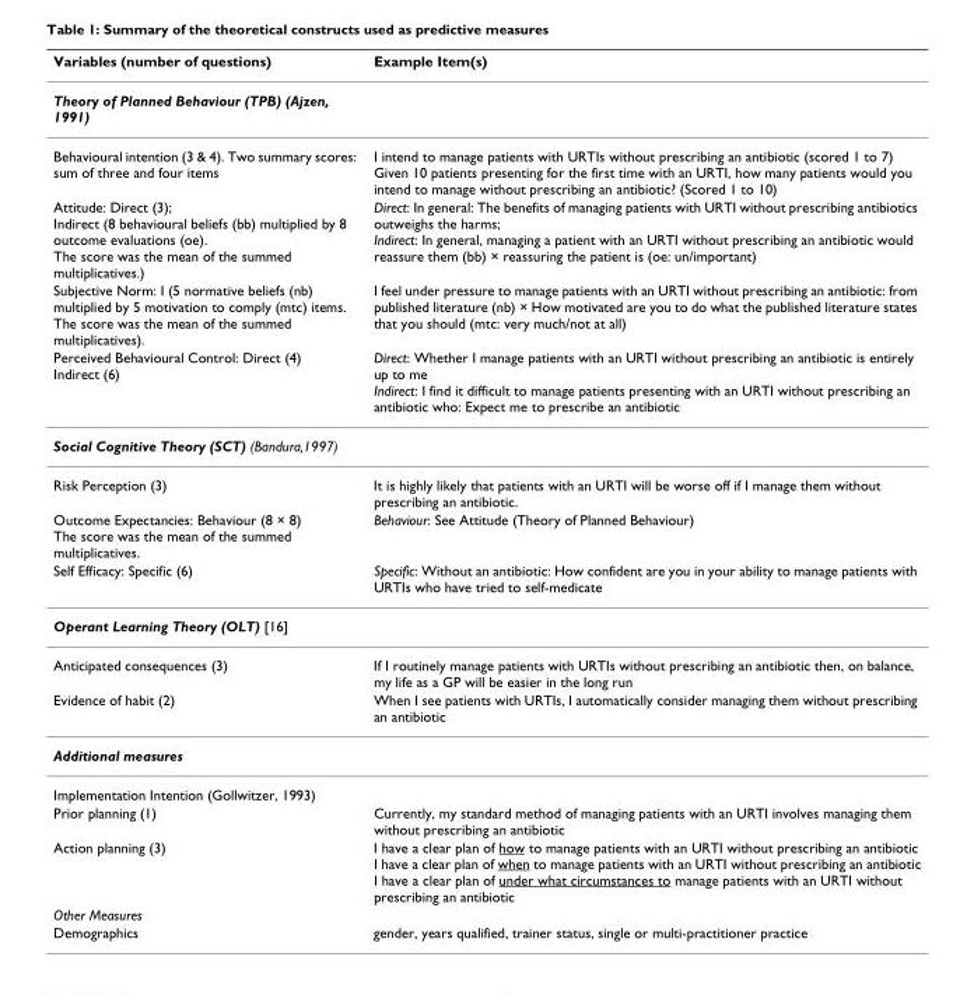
<table><thead><tr><td>Variables (number of questions)</td><td>Example Item(s)</td></tr></thead><tbody><tr><td colspan="2">Theory of Planned Behaviour (TPB) (Ajzen, 1991)</td></tr><tr><td>Behavioural intention (3 &amp; 4). Two summary scores: sum of three and four items</td><td>I intend to manage patients with URTIs without prescribing an antibiotic (scored 1 to 7) Given 10 patients presenting for the first time with an URTI, how many patients would you intend to manage without prescribing an antibiotic? (Scored 1 to 10)</td></tr><tr><td>Attitude: Direct (3); Indirect (8 behavioural beliefs (bb) multiplied by 8 outcome evaluations (oe). The score was the mean of the summed multiplicatives.)</td><td>Direct: In general: The benefits of managing patients with URTI without prescribing antibiotics outweighs the harms; Indirect: In general, managing a patient with an URTI without prescribing an antibiotic would reassure them (bb) × reassuring the patient is (oe: un/important)</td></tr><tr><td>Subjective Norm: I (5 normative beliefs (nb) multiplied by 5 motivation to comply (mtc) items. The score was the mean of the summed multiplicatives).</td><td>I feel under pressure to manage patients with an URTI without prescribing an antibiotic: from published literature (nb) × How motivated are you to do what the published literature states that you should (mtc: very much/not at all)</td></tr><tr><td>Perceived Behavioural Control: Direct (4) Indirect (6)</td><td>Direct: Whether I manage patients with an URTI without prescribing an antibiotic is entirely up to me Indirect: I find it difficult to manage patients presenting with an URTI without prescribing an antibiotic who: Expect me to prescribe an antibiotic</td></tr><tr><td colspan="2">Social Cognitive Theory (SCT) (Bandura,1997)</td></tr><tr><td>Risk Perception (3)</td><td>It is highly likely that patients with an URTI will be worse off if I manage them without prescribing an antibiotic.</td></tr><tr><td>Outcome Expectancies: Behaviour (8 × 8) The score was the mean of the summed multiplicatives.</td><td>Behaviour: See Attitude (Theory of Planned Behaviour)</td></tr><tr><td>Self Efficacy: Specific (6)</td><td>Specific: Without an antibiotic: How confident are you in your ability to manage patients with URTIs who have tried to self-medicate</td></tr><tr><td colspan="2">Operant Learning Theory (OLT) [16]</td></tr><tr><td>Anticipated consequences (3)</td><td>If I routinely manage patients with URTIs without prescribing an antibiotic then, on balance, my life as a GP will be easier in the long run</td></tr><tr><td>Evidence of habit (2)</td><td>When I see patients with URTIs, I automatically consider managing them without prescribing an antibiotic</td></tr><tr><td colspan="2">Additional measures</td></tr><tr><td colspan="2">Implementation Intention (Gollwitzer, 1993)</td></tr><tr><td>Prior planning (1)</td><td>Currently, my standard method of managing patients with an URTI involves managing them without prescribing an antibiotic</td></tr><tr><td>Action planning (3)</td><td>I have a clear plan of how to manage patients with an URTI without prescribing an antibiotic I have a clear plan of when to manage patients with an URTI without prescribing an antibiotic I have a clear plan of under what circumstances to manage patients with an URTI without prescribing an antibiotic</td></tr><tr><td colspan="2">Other Measures</td></tr><tr><td>Demographics</td><td>gender, years qualified, trainer status, single or multi-practitioner practice</td></tr></tbody></table>